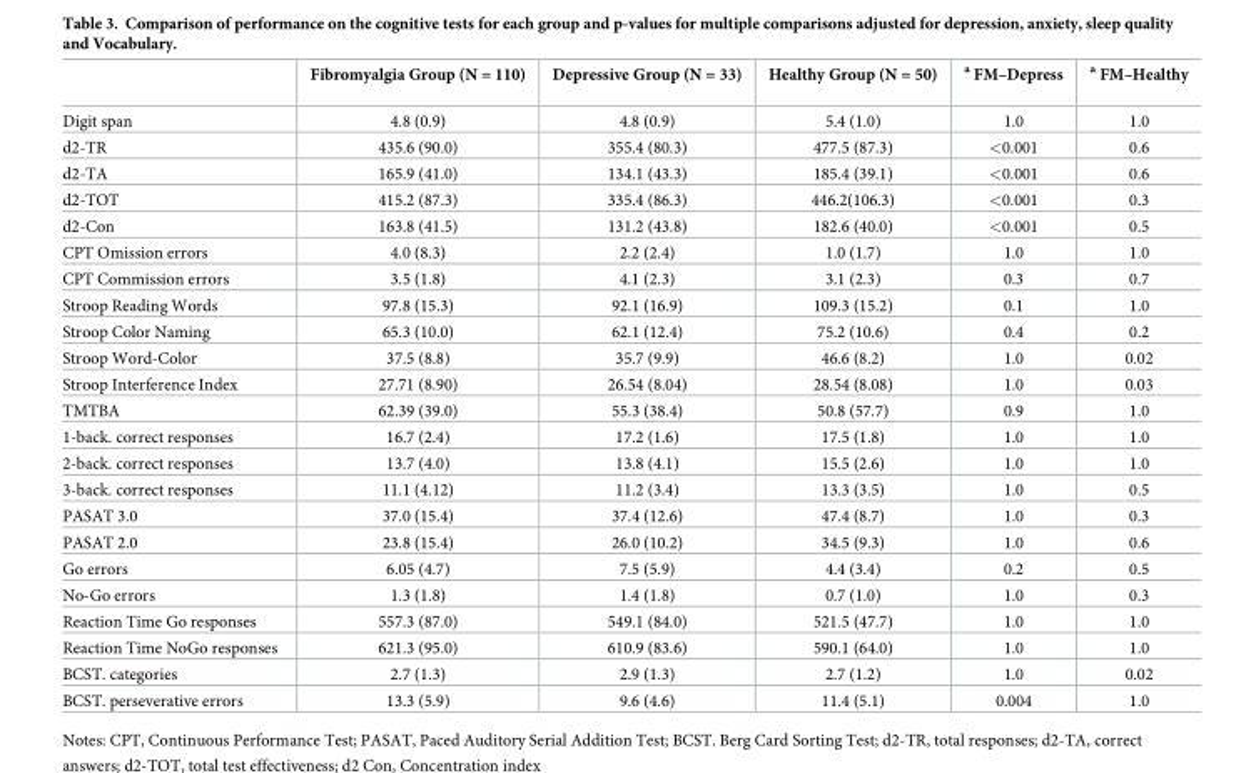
<table><thead><tr><td></td><td>Fibromyalgia Group (N = 110)</td><td>Depressive Group (N = 33)</td><td>Healthy Group (N = 50)</td><td><sup>a</sup> FM–Depress</td><td><sup>a</sup> FM–Healthy</td></tr></thead><tbody><tr><td>Digit span</td><td>4.8 (0.9)</td><td>4.8 (0.9)</td><td>5.4 (1.0)</td><td>1.0</td><td>1.0</td></tr><tr><td>d2-TR</td><td>435.6 (90.0)</td><td>355.4 (80.3)</td><td>477.5 (87.3)</td><td>&lt;0.001</td><td>0.6</td></tr><tr><td>d2-TA</td><td>165.9 (41.0)</td><td>134.1 (43.3)</td><td>185.4 (39.1)</td><td>&lt;0.001</td><td>0.6</td></tr><tr><td>d2-TOT</td><td>415.2 (87.3)</td><td>335.4 (86.3)</td><td>446.2(106.3)</td><td>&lt;0.001</td><td>0.3</td></tr><tr><td>d2-Con</td><td>163.8 (41.5)</td><td>131.2 (43.8)</td><td>182.6 (40.0)</td><td>&lt;0.001</td><td>0.5</td></tr><tr><td>CPT Omission errors</td><td>4.0 (8.3)</td><td>2.2 (2.4)</td><td>1.0 (1.7)</td><td>1.0</td><td>1.0</td></tr><tr><td>CPT Commission errors</td><td>3.5 (1.8)</td><td>4.1 (2.3)</td><td>3.1 (2.3)</td><td>0.3</td><td>0.7</td></tr><tr><td>Stroop Reading Words</td><td>97.8 (15.3)</td><td>92.1 (16.9)</td><td>109.3 (15.2)</td><td>0.1</td><td>1.0</td></tr><tr><td>Stroop Color Naming</td><td>65.3 (10.0)</td><td>62.1 (12.4)</td><td>75.2 (10.6)</td><td>0.4</td><td>0.2</td></tr><tr><td>Stroop Word-Color</td><td>37.5 (8.8)</td><td>35.7 (9.9)</td><td>46.6 (8.2)</td><td>1.0</td><td>0.02</td></tr><tr><td>Stroop Interference Index</td><td>27.71 (8.90)</td><td>26.54 (8.04)</td><td>28.54 (8.08)</td><td>1.0</td><td>0.03</td></tr><tr><td>TMTBA</td><td>62.39 (39.0)</td><td>55.3 (38.4)</td><td>50.8 (57.7)</td><td>0.9</td><td>1.0</td></tr><tr><td>1-back. correct responses</td><td>16.7 (2.4)</td><td>17.2 (1.6)</td><td>17.5 (1.8)</td><td>1.0</td><td>1.0</td></tr><tr><td>2-back. correct responses</td><td>13.7 (4.0)</td><td>13.8 (4.1)</td><td>15.5 (2.6)</td><td>1.0</td><td>1.0</td></tr><tr><td>3-back. correct responses</td><td>11.1 (4.12)</td><td>11.2 (3.4)</td><td>13.3 (3.5)</td><td>1.0</td><td>0.5</td></tr><tr><td>PASAT 3.0</td><td>37.0 (15.4)</td><td>37.4 (12.6)</td><td>47.4 (8.7)</td><td>1.0</td><td>0.3</td></tr><tr><td>PASAT 2.0</td><td>23.8 (15.4)</td><td>26.0 (10.2)</td><td>34.5 (9.3)</td><td>1.0</td><td>0.6</td></tr><tr><td>Go errors</td><td>6.05 (4.7)</td><td>7.5 (5.9)</td><td>4.4 (3.4)</td><td>0.2</td><td>0.5</td></tr><tr><td>No-Go errors</td><td>1.3 (1.8)</td><td>1.4 (1.8)</td><td>0.7 (1.0)</td><td>1.0</td><td>0.3</td></tr><tr><td>Reaction Time Go responses</td><td>557.3 (87.0)</td><td>549.1 (84.0)</td><td>521.5 (47.7)</td><td>1.0</td><td>1.0</td></tr><tr><td>Reaction Time NoGo responses</td><td>621.3 (95.0)</td><td>610.9 (83.6)</td><td>590.1 (64.0)</td><td>1.0</td><td>1.0</td></tr><tr><td>BCST. categories</td><td>2.7 (1.3)</td><td>2.9 (1.3)</td><td>2.7 (1.2)</td><td>1.0</td><td>0.02</td></tr><tr><td>BCST. perseverative errors</td><td>13.3 (5.9)</td><td>9.6 (4.6)</td><td>11.4 (5.1)</td><td>0.004</td><td>1.0</td></tr></tbody></table>